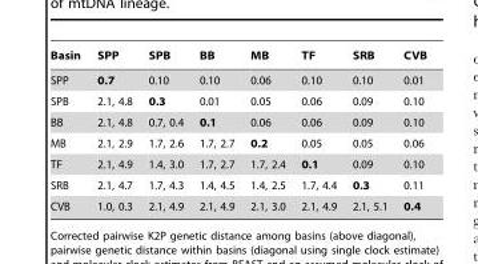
<table><thead><tr><td>Basin</td><td>SPP</td><td>SPB</td><td>BB</td><td>MB</td><td>TF</td><td>SRB</td><td>CVB</td></tr></thead><tbody><tr><td>SPP</td><td>0.7</td><td>0.10</td><td>0.10</td><td>0.06</td><td>0.10</td><td>0.10</td><td>0.01</td></tr><tr><td>SPB</td><td>2.1, 4.8</td><td>0.3</td><td>0.01</td><td>0.05</td><td>0.06</td><td>0.09</td><td>0.10</td></tr><tr><td>BB</td><td>2.1, 4.8</td><td>0.7, 0.4</td><td>0.1</td><td>0.06</td><td>0.06</td><td>0.09</td><td>0.10</td></tr><tr><td>MB</td><td>2.1, 2.9</td><td>1.7, 2.6</td><td>1.7, 2.7</td><td>0.2</td><td>0.05</td><td>0.05</td><td>0.06</td></tr><tr><td>TF</td><td>2.1, 4.9</td><td>1.4, 3.0</td><td>1.7, 2.7</td><td>1.7, 2.4</td><td>0.1</td><td>0.09</td><td>0.10</td></tr><tr><td>SRB</td><td>2.1, 4.7</td><td>1.7, 4.3</td><td>1.4, 4.5</td><td>1.4, 2.5</td><td>1.7, 4.4</td><td>0.3</td><td>0.11</td></tr><tr><td>CVB</td><td>1.0, 0.3</td><td>2.1, 4.9</td><td>2.1, 4.9</td><td>2.1, 3.0</td><td>2.1, 4.9</td><td>2.1, 5.1</td><td>0.4</td></tr></tbody></table>